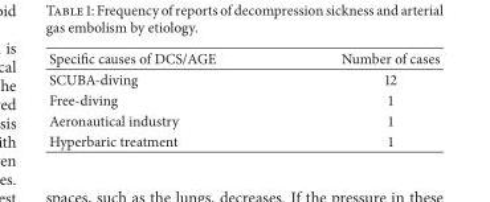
<table><thead><tr><td>Specific causes of DCS/AGE</td><td>Number of cases</td></tr></thead><tbody><tr><td>SCUBA-diving</td><td>12</td></tr><tr><td>Free-diving</td><td>1</td></tr><tr><td>Aeronautical industry</td><td>1</td></tr><tr><td>Hyperbaric treatment</td><td>1</td></tr></tbody></table>